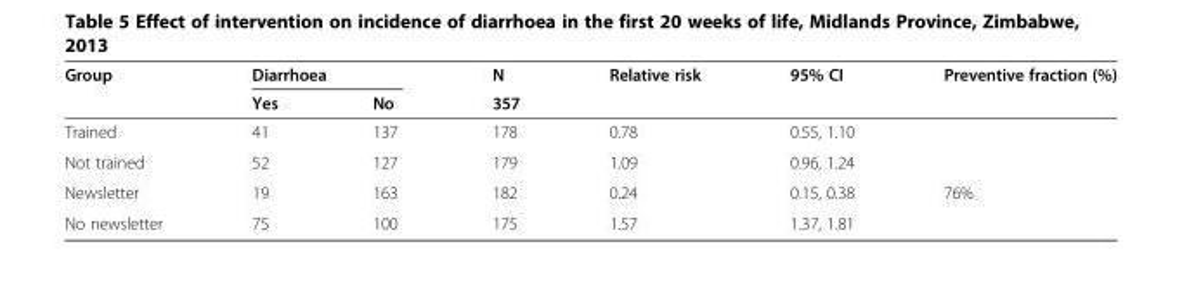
<table><thead><tr><td rowspan="2">Group</td><td colspan="2">Diarrhoea</td><td rowspan="2">N 357</td><td rowspan="2">Relative risk</td><td rowspan="2">95% CI</td><td rowspan="2">Preventive fraction (%)</td></tr><tr><td>Yes</td><td>No</td></tr></thead><tbody><tr><td>Trained</td><td>41</td><td>137</td><td>178</td><td>0.78</td><td>0.55, 1.10</td><td></td></tr><tr><td>Not trained</td><td>52</td><td>127</td><td>179</td><td>1.09</td><td>0.96, 1.24</td><td></td></tr><tr><td>Newsletter</td><td>19</td><td>163</td><td>182</td><td>0.24</td><td>0.15, 0.38</td><td>76%</td></tr><tr><td>No newsletter</td><td>75</td><td>100</td><td>175</td><td>1.57</td><td>1.37, 1.81</td><td></td></tr></tbody></table>